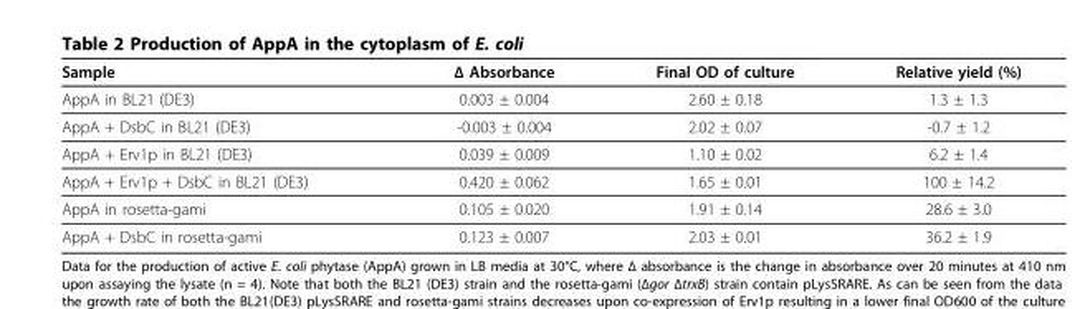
<table><thead><tr><td>Sample</td><td>Δ Absorbance</td><td>Final OD of culture</td><td>Relative yield (%)</td></tr></thead><tbody><tr><td>AppA in BL21 (DE3)</td><td>0.003 ± 0.004</td><td>2.60 ± 0.18</td><td>1.3 ± 1.3</td></tr><tr><td>AppA + DsbC in BL21 (DE3)</td><td>-0.003 ± 0.004</td><td>2.02 ± 0.07</td><td>-0.7 ± 1.2</td></tr><tr><td>AppA + Erv1p in BL21 (DE3)</td><td>0.039 ± 0.009</td><td>1.10 ± 0.02</td><td>6.2 ± 1.4</td></tr><tr><td>AppA + Erv1p + DsbC in BL21 (DE3)</td><td>0.420 ± 0.062</td><td>1.65 ± 0.01</td><td>100 ± 14.2</td></tr><tr><td>AppA in rosetta-gami</td><td>0.105 ± 0.020</td><td>1.91 ± 0.14</td><td>28.6 ± 3.0</td></tr><tr><td>AppA + DsbC in rosetta-gami</td><td>0.123 ± 0.007</td><td>2.03 ± 0.01</td><td>36.2 ± 1.9</td></tr></tbody></table>